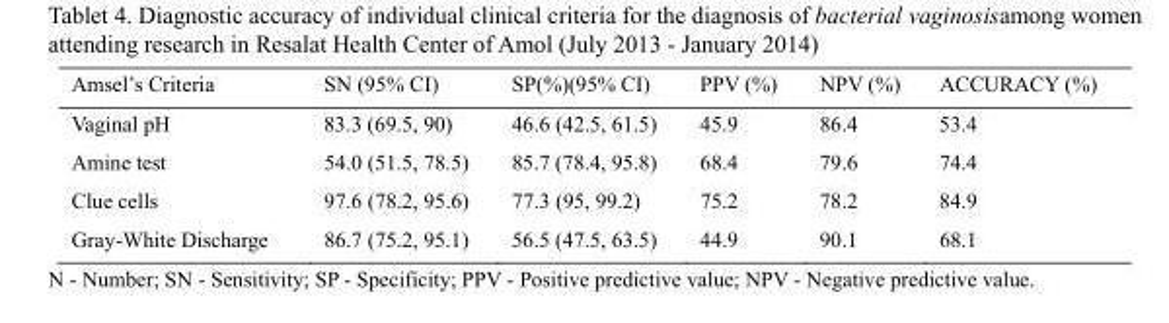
<table><thead><tr><td>Amsel’s Criteria</td><td>SN (95% CI)</td><td>SP(%)(95% CI)</td><td>PPV (%)</td><td>NPV (%)</td><td>ACCURACY (%)</td></tr></thead><tbody><tr><td>Vaginal pH</td><td>83.3 (69.5, 90)</td><td>46.6 (42.5, 61.5)</td><td>45.9</td><td>86.4</td><td>53.4</td></tr><tr><td>Amine test</td><td>54.0 (51.5, 78.5)</td><td>85.7 (78.4, 95.8)</td><td>68.4</td><td>79.6</td><td>74.4</td></tr><tr><td>Clue cells</td><td>97.6 (78.2, 95.6)</td><td>77.3 (95, 99.2)</td><td>75.2</td><td>78.2</td><td>84.9</td></tr><tr><td>Gray-White Discharge</td><td>86.7 (75.2, 95.1)</td><td>56.5 (47.5, 63.5)</td><td>44.9</td><td>90.1</td><td>68.1</td></tr></tbody></table>